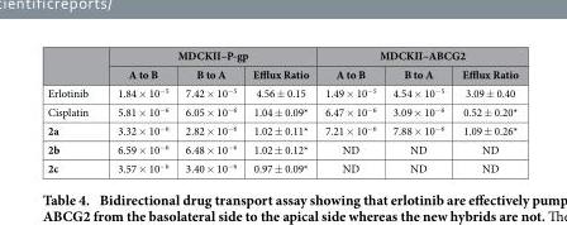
<table><thead><tr><td rowspan="2"></td><td colspan="3">MDCKII–P-gp</td><td colspan="3">MDCKII–ABCG2</td></tr><tr><td>A to B</td><td>B to A</td><td>Efflux Ratio</td><td>A to B</td><td>B to A</td><td>Efflux Ratio</td></tr></thead><tbody><tr><td>Erlotinib</td><td>1.84 × 10<sup>−5</sup></td><td>7.42 × 10<sup>−5</sup></td><td>4.56 ± 0.15</td><td>1.49 × 10<sup>−5</sup></td><td>4.54 × 10<sup>−5</sup></td><td>3.09 ± 0.40</td></tr><tr><td>Cisplatin</td><td>5.81 × 10<sup>−6</sup></td><td>6.05 × 10<sup>−6</sup></td><td>1.04 ± 0.09*</td><td>6.47 × 10<sup>−6</sup></td><td>3.09 × 10<sup>−6</sup></td><td>0.52 ± 0.20*</td></tr><tr><td>2a</td><td>3.32 × 10<sup>−6</sup></td><td>2.82 × 10<sup>−6</sup></td><td>1.02 ± 0.11*</td><td>7.21 × 10<sup>−6</sup></td><td>7.88 × 10<sup>−6</sup></td><td>1.09 ± 0.26*</td></tr><tr><td>2b</td><td>6.59 × 10<sup>−6</sup></td><td>6.48 × 10<sup>−6</sup></td><td>1.02 ± 0.12*</td><td>ND</td><td>ND</td><td>ND</td></tr><tr><td>2c</td><td>3.57 × 10<sup>−6</sup></td><td>3.40 × 10<sup>−6</sup></td><td>0.97 ± 0.09*</td><td>ND</td><td>ND</td><td>ND</td></tr></tbody></table>